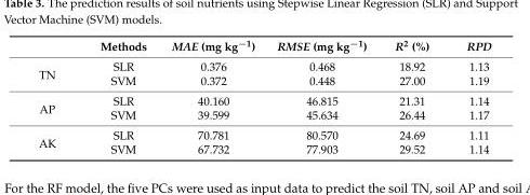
<table><thead><tr><td></td><td>Methods</td><td>MAE (mg kg<sup>−1</sup>)</td><td>RMSE (mg kg<sup>−1</sup>)</td><td>R<sup>2</sup> (%)</td><td>RPD</td></tr></thead><tbody><tr><td rowspan="2">TN</td><td>SLR</td><td>0.376</td><td>0.468</td><td>18.92</td><td>1.13</td></tr><tr><td>SVM</td><td>0.372</td><td>0.448</td><td>27.00</td><td>1.19</td></tr><tr><td rowspan="2">AP</td><td>SLR</td><td>40.160</td><td>46.815</td><td>21.31</td><td>1.14</td></tr><tr><td>SVM</td><td>39.599</td><td>45.634</td><td>26.44</td><td>1.17</td></tr><tr><td rowspan="2">AK</td><td>SLR</td><td>70.781</td><td>80.570</td><td>24.69</td><td>1.11</td></tr><tr><td>SVM</td><td>67.732</td><td>77.903</td><td>29.52</td><td>1.14</td></tr></tbody></table>